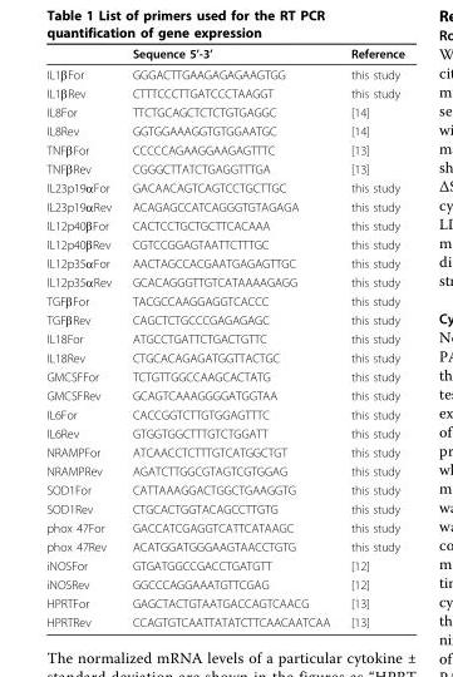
<table><thead><tr><td></td><td>Sequence 5’-3’</td><td>Reference</td></tr></thead><tbody><tr><td>IL1βFor</td><td>GGGACTTGAAGAGAGAAGTGG</td><td>this study</td></tr><tr><td>IL1βRev</td><td>CTTTCCCTTGATCCCTAAGGT</td><td>this study</td></tr><tr><td>IL8For</td><td>TTCTGCAGCTCTCTGTGAGGC</td><td>[14]</td></tr><tr><td>IL8Rev</td><td>GGTGGAAAGGTGTGGAATGC</td><td>[14]</td></tr><tr><td>TNFβFor</td><td>CCCCCAGAAGGAAGAGTTTC</td><td>[13]</td></tr><tr><td>TNFβRev</td><td>CGGGCTTATCTGAGGTTTGA</td><td>[13]</td></tr><tr><td>IL23p19αFor</td><td>GACAACAGTCAGTCCTGCTTGC</td><td>this study</td></tr><tr><td>IL23p19αRev</td><td>ACAGAGCCATCAGGGTGTAGAGA</td><td>this study</td></tr><tr><td>IL12p40βFor</td><td>CACTCCTGCTGCTTCACAAA</td><td>this study</td></tr><tr><td>IL12p40βRev</td><td>CGTCCGGAGTAATTCTTTGC</td><td>this study</td></tr><tr><td>IL12p35αFor</td><td>AACTAGCCACGAATGAGAGTTGC</td><td>this study</td></tr><tr><td>IL12p35αRev</td><td>GCACAGGGTTGTCATAAAAGAGG</td><td>this study</td></tr><tr><td>TGFβFor</td><td>TACGCCAAGGAGGTCACCC</td><td>this study</td></tr><tr><td>TGFβRev</td><td>CAGCTCTGCCCGAGAGAGC</td><td>this study</td></tr><tr><td>IL18For</td><td>ATGCCTGATTCTGACTGTTC</td><td>this study</td></tr><tr><td>IL18Rev</td><td>CTGCACAGAGATGGTTACTGC</td><td>this study</td></tr><tr><td>GMCSFFor</td><td>TCTGTTGGCCAAGCACTATG</td><td>this study</td></tr><tr><td>GMCSFRev</td><td>GCAGTCAAAGGGGATGGTAA</td><td>this study</td></tr><tr><td>IL6For</td><td>CACCGGTCTTGTGGAGTTTC</td><td>this study</td></tr><tr><td>IL6Rev</td><td>GTGGTGGCTTTGTCTGGATT</td><td>this study</td></tr><tr><td>NRAMPFor</td><td>ATCAACCTCTTTGTCATGGCTGT</td><td>this study</td></tr><tr><td>NRAMPRev</td><td>AGATCTTGGCGTAGTCGTGGAG</td><td>this study</td></tr><tr><td>SOD1For</td><td>CATTAAAGGACTGGCTGAAGGTG</td><td>this study</td></tr><tr><td>SOD1Rev</td><td>CTGCACTGGTACAGCCTTGTG</td><td>this study</td></tr><tr><td>phox 47For</td><td>GACCATCGAGGTCATTCATAAGC</td><td>this study</td></tr><tr><td>phox 47Rev</td><td>ACATGGATGGGAAGTAACCTGTG</td><td>this study</td></tr><tr><td>iNOSFor</td><td>GTGATGGCCGACCTGATGTT</td><td>[12]</td></tr><tr><td>iNOSRev</td><td>GGCCCAGGAAATGTTCGAG</td><td>[12]</td></tr><tr><td>HPRTFor</td><td>GAGCTACTGTAATGACCAGTCAACG</td><td>[13]</td></tr><tr><td>HPRTRev</td><td>CCAGTGTCAATTATATCTTCAACAATCAA</td><td>[13]</td></tr></tbody></table>